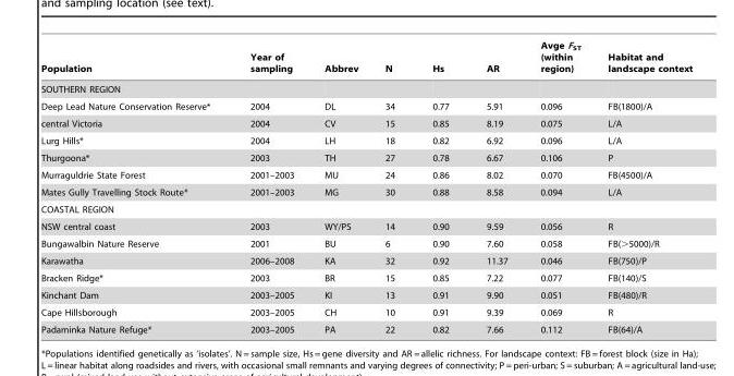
<table><thead><tr><td>Population</td><td>Year of sampling</td><td>Abbrev</td><td>N</td><td>Hs</td><td>AR</td><td>Avge F<sub>ST</sub> (within region)</td><td>Habitat and landscape context</td></tr></thead><tbody><tr><td colspan="8">SOUTHERN REGION</td></tr><tr><td>Deep Lead Nature Conservation Reserve*</td><td>2004</td><td>DL</td><td>34</td><td>0.77</td><td>5.91</td><td>0.096</td><td>FB(1800)/A</td></tr><tr><td>central Victoria</td><td>2004</td><td>CV</td><td>15</td><td>0.85</td><td>8.19</td><td>0.075</td><td>L/A</td></tr><tr><td>Lurg Hills*</td><td>2004</td><td>LH</td><td>18</td><td>0.82</td><td>6.92</td><td>0.096</td><td>L/A</td></tr><tr><td>Thurgoona*</td><td>2003</td><td>TH</td><td>27</td><td>0.78</td><td>6.67</td><td>0.106</td><td>P</td></tr><tr><td>Murraguldrie State Forest</td><td>2001–2003</td><td>MU</td><td>24</td><td>0.86</td><td>8.02</td><td>0.070</td><td>FB(4500)/A</td></tr><tr><td>Mates Gully Travelling Stock Route*</td><td>2001–2003</td><td>MG</td><td>30</td><td>0.88</td><td>8.58</td><td>0.094</td><td>L/A</td></tr><tr><td colspan="8">COASTAL REGION</td></tr><tr><td>NSW central coast</td><td>2003</td><td>WY/PS</td><td>14</td><td>0.90</td><td>9.59</td><td>0.056</td><td>R</td></tr><tr><td>Bungawalbin Nature Reserve</td><td>2001</td><td>BU</td><td>6</td><td>0.90</td><td>7.60</td><td>0.058</td><td>FB(&gt;5000)/R</td></tr><tr><td>Karawatha</td><td>2006–2008</td><td>KA</td><td>32</td><td>0.92</td><td>11.37</td><td>0.046</td><td>FB(750)/P</td></tr><tr><td>Bracken Ridge*</td><td>2003</td><td>BR</td><td>15</td><td>0.85</td><td>7.22</td><td>0.077</td><td>FB(140)/S</td></tr><tr><td>Kinchant Dam</td><td>2003–2005</td><td>KI</td><td>13</td><td>0.91</td><td>9.90</td><td>0.051</td><td>FB(480)/R</td></tr><tr><td>Cape Hillsborough</td><td>2003–2005</td><td>CH</td><td>10</td><td>0.91</td><td>9.39</td><td>0.069</td><td>R</td></tr><tr><td>Padaminka Nature Refuge*</td><td>2003–2005</td><td>PA</td><td>22</td><td>0.82</td><td>7.66</td><td>0.112</td><td>FB(64)/A</td></tr></tbody></table>